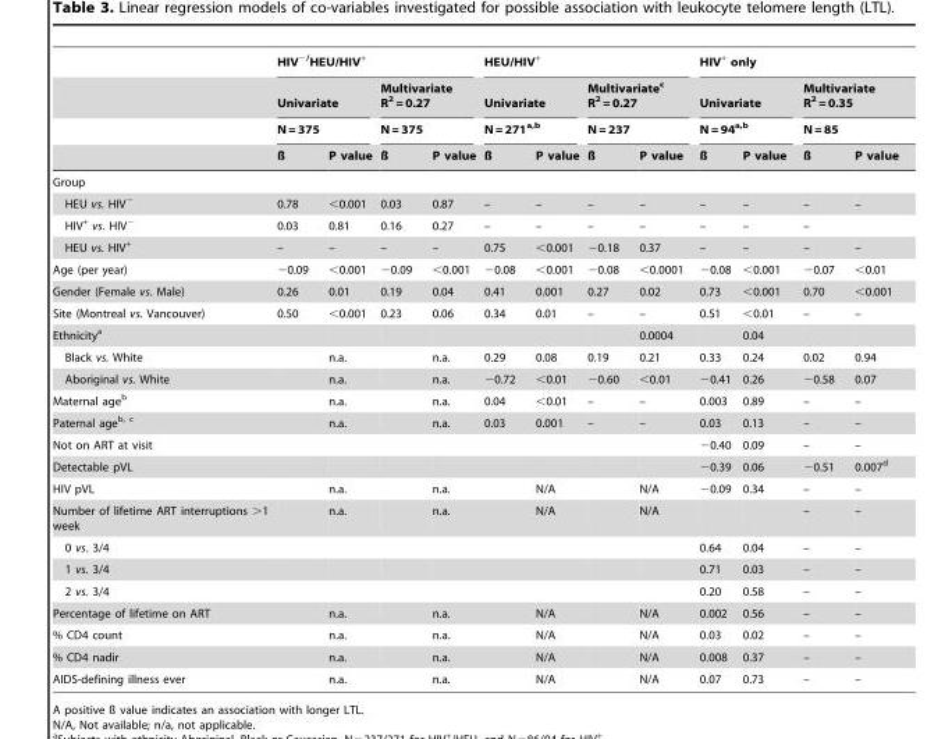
<table><thead><tr><td rowspan="4"></td><td colspan="4">HIV<sup>−/</sup>HEU/HIV<sup>+</sup></td><td colspan="4">HEU/HIV<sup>+</sup></td><td colspan="4">HIV<sup>+</sup> only</td></tr><tr><td rowspan="2" colspan="2">Univariate N = 375</td><td rowspan="2" colspan="2">Multivariate R<sup>2</sup> = 0.27 N = 375</td><td rowspan="2" colspan="2">Univariate N = 271a,b</td><td rowspan="2" colspan="2">Multivariate<sup>c</sup> R<sup>2</sup> = 0.27 N = 237</td><td rowspan="2" colspan="2">Univariate N = 94a,b</td><td rowspan="2" colspan="2">Multivariate R<sup>2</sup> = 0.35 N = 85</td></tr><tr></tr><tr><td>ß</td><td>P value</td><td>ß</td><td>P value</td><td>ß</td><td>P value</td><td>ß</td><td>P value</td><td>ß</td><td>P value</td><td>ß</td><td>P value</td></tr></thead><tbody><tr><td colspan="13">Group</td></tr><tr><td>HEU vs. HIV<sup>−</sup></td><td>0.78</td><td>&lt;0.001</td><td>0.03</td><td>0.87</td><td>–</td><td>–</td><td>–</td><td>–</td><td>–</td><td>–</td><td>–</td><td>–</td></tr><tr><td>HIV<sup>+</sup> vs. HIV<sup>−</sup></td><td>0.03</td><td>0.81</td><td>0.16</td><td>0.27</td><td>–</td><td>–</td><td>–</td><td>–</td><td>–</td><td>–</td><td>–</td><td></td></tr><tr><td>HEU vs. HIV<sup>+</sup></td><td>–</td><td>–</td><td>–</td><td>–</td><td>0.75</td><td>&lt;0.001</td><td>−0.18</td><td>0.37</td><td>–</td><td>–</td><td>–</td><td>–</td></tr><tr><td>Age (per year)</td><td>−0.09</td><td>&lt;0.001</td><td>−0.09</td><td>&lt;0.001</td><td>−0.08</td><td>&lt;0.001</td><td>−0.08</td><td>&lt;0.0001</td><td>−0.08</td><td>&lt;0.001</td><td>−0.07</td><td>&lt;0.01</td></tr><tr><td>Gender (Female vs. Male)</td><td>0.26</td><td>0.01</td><td>0.19</td><td>0.04</td><td>0.41</td><td>0.001</td><td>0.27</td><td>0.02</td><td>0.73</td><td>&lt;0.001</td><td>0.70</td><td>&lt;0.001</td></tr><tr><td>Site (Montreal vs. Vancouver)</td><td>0.50</td><td>&lt;0.001</td><td>0.23</td><td>0.06</td><td>0.34</td><td>0.01</td><td>–</td><td>–</td><td>0.51</td><td>&lt;0.01</td><td>–</td><td>–</td></tr><tr><td>Ethnicity<sup>a</sup></td><td></td><td></td><td></td><td></td><td></td><td></td><td></td><td>0.0004</td><td></td><td>0.04</td><td></td><td></td></tr><tr><td>Black vs. White</td><td></td><td>n.a.</td><td></td><td>n.a.</td><td>0.29</td><td>0.08</td><td>0.19</td><td>0.21</td><td>0.33</td><td>0.24</td><td>0.02</td><td>0.94</td></tr><tr><td>Aboriginal vs. White</td><td></td><td>n.a.</td><td></td><td>n.a.</td><td>−0.72</td><td>&lt;0.01</td><td>−0.60</td><td>&lt;0.01</td><td>−0.41</td><td>0.26</td><td>−0.58</td><td>0.07</td></tr><tr><td>Maternal age<sup>b</sup></td><td></td><td>n.a.</td><td></td><td>n.a.</td><td>0.04</td><td>&lt;0.01</td><td>–</td><td>–</td><td>0.003</td><td>0.89</td><td>–</td><td>–</td></tr><tr><td>Paternal ageb, c</td><td></td><td>n.a.</td><td></td><td>n.a.</td><td>0.03</td><td>0.001</td><td>–</td><td>–</td><td>0.03</td><td>0.13</td><td>–</td><td>–</td></tr><tr><td>Not on ART at visit</td><td></td><td></td><td></td><td></td><td></td><td></td><td></td><td></td><td>−0.40</td><td>0.09</td><td>–</td><td>–</td></tr><tr><td>Detectable pVL</td><td></td><td></td><td></td><td></td><td></td><td></td><td></td><td></td><td>−0.39</td><td>0.06</td><td>−0.51</td><td>0.007<sup>d</sup></td></tr><tr><td>HIV pVL</td><td></td><td>n.a.</td><td></td><td>n.a.</td><td></td><td>N/A</td><td></td><td>N/A</td><td>−0.09</td><td>0.34</td><td>–</td><td>–</td></tr><tr><td>Number of lifetime ART interruptions &gt;1 week</td><td></td><td>n.a.</td><td></td><td>n.a.</td><td></td><td>N/A</td><td></td><td>N/A</td><td></td><td></td><td>–</td><td>–</td></tr><tr><td>0 vs. 3/4</td><td></td><td></td><td></td><td></td><td></td><td></td><td></td><td></td><td>0.64</td><td>0.04</td><td>–</td><td>–</td></tr><tr><td>1 vs. 3/4</td><td></td><td></td><td></td><td></td><td></td><td></td><td></td><td></td><td>0.71</td><td>0.03</td><td>–</td><td>–</td></tr><tr><td>2 vs. 3/4</td><td></td><td></td><td></td><td></td><td></td><td></td><td></td><td></td><td>0.20</td><td>0.58</td><td>–</td><td>–</td></tr><tr><td>Percentage of lifetime on ART</td><td></td><td>n.a.</td><td></td><td>n.a.</td><td></td><td>N/A</td><td></td><td>N/A</td><td>0.002</td><td>0.56</td><td>–</td><td>–</td></tr><tr><td>% CD4 count</td><td></td><td>n.a.</td><td></td><td>n.a.</td><td></td><td>N/A</td><td></td><td>N/A</td><td>0.03</td><td>0.02</td><td>–</td><td>–</td></tr><tr><td>% CD4 nadir</td><td></td><td>n.a.</td><td></td><td>n.a.</td><td></td><td>N/A</td><td></td><td>N/A</td><td>0.008</td><td>0.37</td><td>–</td><td>–</td></tr><tr><td>AIDS-defining illness ever</td><td></td><td>n.a.</td><td></td><td>n.a.</td><td></td><td>N/A</td><td></td><td>N/A</td><td>0.07</td><td>0.73</td><td>–</td><td>–</td></tr></tbody></table>